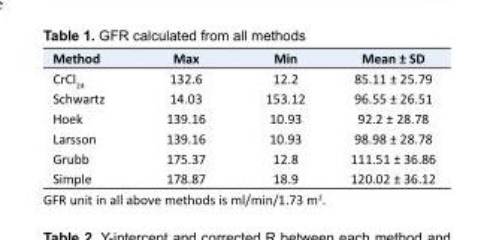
<table><tbody><tr><td>Method</td><td>Max</td><td>Min</td><td>Mean ± SD</td></tr><tr><td>CrCl<sub>24</sub></td><td>132.6</td><td>12.2</td><td>85.11 ± 25.79</td></tr><tr><td>Schwartz</td><td>14.03</td><td>153.12</td><td>96.55 ± 26.51</td></tr><tr><td>Hoek</td><td>139.16</td><td>10.93</td><td>92.2 ± 28.78</td></tr><tr><td>Larsson</td><td>139.16</td><td>10.93</td><td>98.98 ± 28.78</td></tr><tr><td>Grubb</td><td>175.37</td><td>12.8</td><td>111.51 ± 36.86</td></tr><tr><td>Simple</td><td>178.87</td><td>18.9</td><td>120.02 ± 36.12</td></tr></tbody></table>